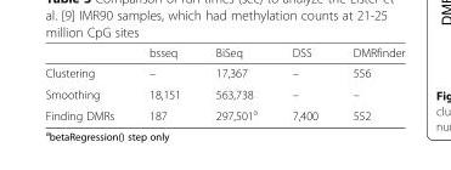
<table><thead><tr><td></td><td>bsseq</td><td>BiSeq</td><td>DSS</td><td>DMRfinder</td></tr></thead><tbody><tr><td>Clustering</td><td>–</td><td>17,367</td><td>–</td><td>556</td></tr><tr><td>Smoothing</td><td>18,151</td><td>563,738</td><td>–</td><td>–</td></tr><tr><td>Finding DMRs</td><td>187</td><td>297,501<sup>a</sup></td><td>7,400</td><td>552</td></tr></tbody></table>